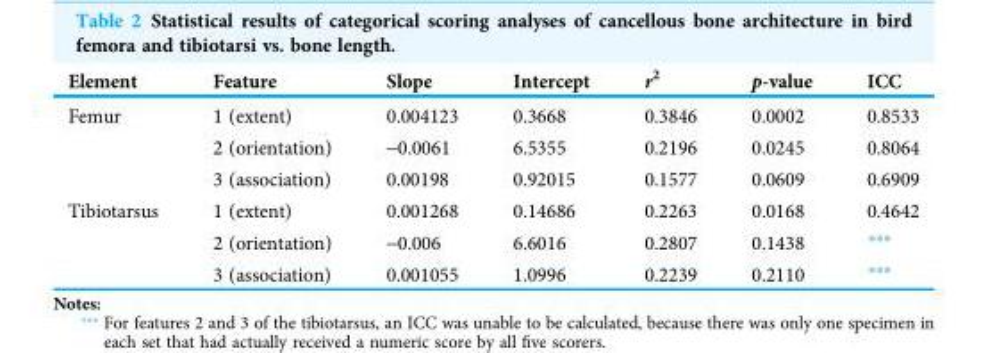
<table><thead><tr><td>Element</td><td>Feature</td><td>Slope</td><td>Intercept</td><td>r<sup>2</sup></td><td>p-value</td><td>ICC</td></tr></thead><tbody><tr><td rowspan="3">Femur</td><td>1 (extent)</td><td>0.004123</td><td>0.3668</td><td>0.3846</td><td>0.0002</td><td>0.8533</td></tr><tr><td>2 (orientation)</td><td>-0.0061</td><td>6.5355</td><td>0.2196</td><td>0.0245</td><td>0.8064</td></tr><tr><td>3 (association)</td><td>0.00198</td><td>0.92015</td><td>0.1577</td><td>0.0609</td><td>0.6909</td></tr><tr><td rowspan="3">Tibiotarsus</td><td>1 (extent)</td><td>0.001268</td><td>0.14686</td><td>0.2263</td><td>0.0168</td><td>0.4642</td></tr><tr><td>2 (orientation)</td><td>-0.006</td><td>6.6016</td><td>0.2807</td><td>0.1438</td><td>***</td></tr><tr><td>3 (association)</td><td>0.001055</td><td>1.0996</td><td>0.2239</td><td>0.2110</td><td>***</td></tr></tbody></table>